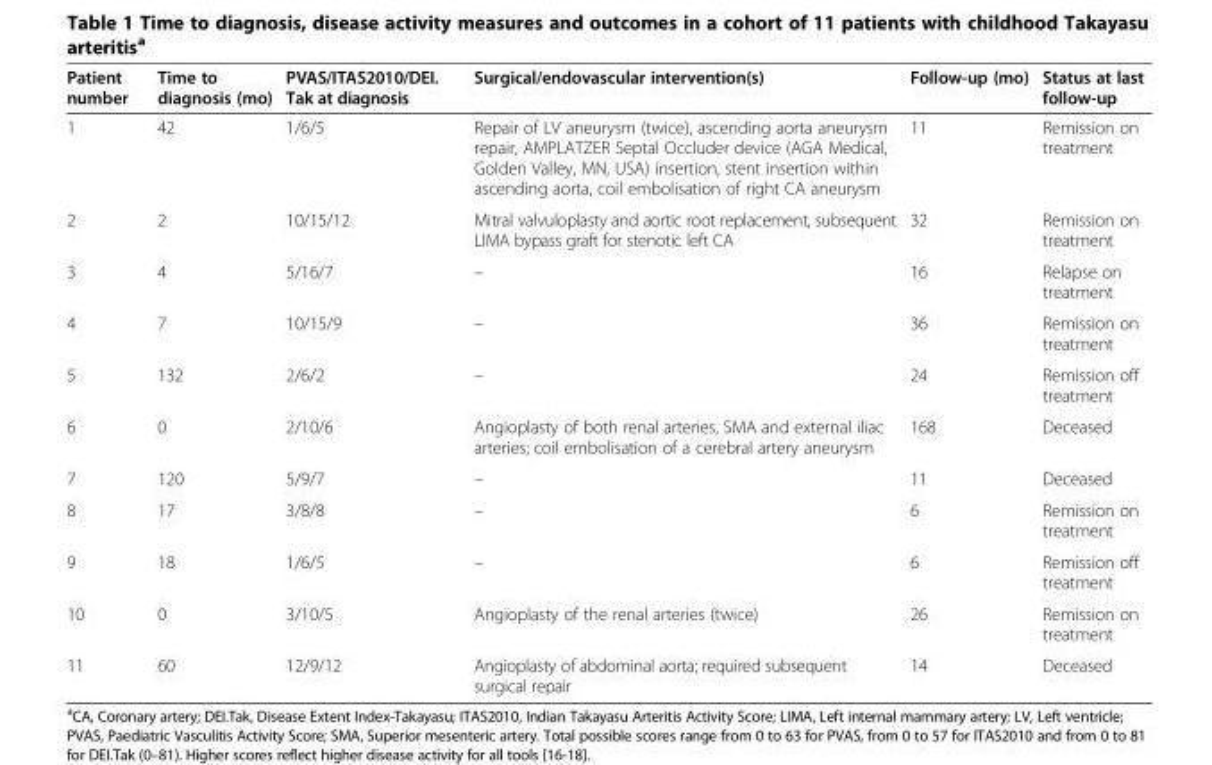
<table><thead><tr><td>Patient number</td><td>Time to diagnosis (mo)</td><td>PVAS/ITAS2010/DEI. Tak at diagnosis</td><td>Surgical/endovascular intervention(s)</td><td>Follow-up (mo)</td><td>Status at last follow-up</td></tr></thead><tbody><tr><td>1</td><td>42</td><td>1/6/5</td><td>Repair of LV aneurysm (twice), ascending aorta aneurysm repair, AMPLATZER Septal Occluder device (AGA Medical, Golden Valley, MN, USA) insertion, stent insertion within ascending aorta, coil embolisation of right CA aneurysm</td><td>11</td><td>Remission on treatment</td></tr><tr><td>2</td><td>2</td><td>10/15/12</td><td>Mitral valvuloplasty and aortic root replacement, subsequent LIMA bypass graft for stenotic left CA</td><td>32</td><td>Remission on treatment</td></tr><tr><td>3</td><td>4</td><td>5/16/7</td><td>–</td><td>16</td><td>Relapse on treatment</td></tr><tr><td>4</td><td>7</td><td>10/15/9</td><td>–</td><td>36</td><td>Remission on treatment</td></tr><tr><td>5</td><td>132</td><td>2/6/2</td><td>–</td><td>24</td><td>Remission off treatment</td></tr><tr><td>6</td><td>0</td><td>2/10/6</td><td>Angioplasty of both renal arteries, SMA and external iliac arteries; coil embolisation of a cerebral artery aneurysm</td><td>168</td><td>Deceased</td></tr><tr><td>7</td><td>120</td><td>5/9/7</td><td>–</td><td>11</td><td>Deceased</td></tr><tr><td>8</td><td>17</td><td>3/8/8</td><td>–</td><td>6</td><td>Remission on treatment</td></tr><tr><td>9</td><td>18</td><td>1/6/5</td><td>–</td><td>6</td><td>Remission off treatment</td></tr><tr><td>10</td><td>0</td><td>3/10/5</td><td>Angioplasty of the renal arteries (twice)</td><td>26</td><td>Remission on treatment</td></tr><tr><td>11</td><td>60</td><td>12/9/12</td><td>Angioplasty of abdominal aorta; required subsequent surgical repair</td><td>14</td><td>Deceased</td></tr></tbody></table>